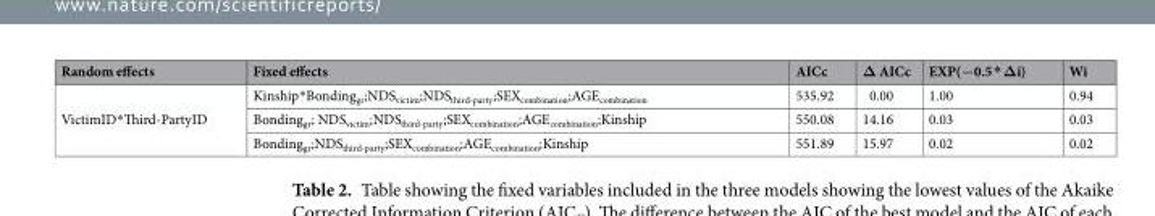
<table><thead><tr><td>Random effects</td><td>Fixed effects</td><td>AICc</td><td>Δ AICc</td><td>EXP(−0.5 * Δi)</td><td>Wi</td></tr></thead><tbody><tr><td rowspan="3">VictimID*Third-PartyID</td><td>Kinship*Bonding<sub>gr</sub>;NDS<sub>victim</sub>;NDS<sub>third-party</sub>;SEX<sub>combination</sub>;AGE<sub>combination</sub></td><td>535.92</td><td>0.00</td><td>1.00</td><td>0.94</td></tr><tr><td>Bonding<sub>gr</sub>; NDS<sub>victim</sub>;NDS<sub>third-party</sub>;SEX<sub>combination</sub>;AGE<sub>combination</sub>;Kinship</td><td>550.08</td><td>14.16</td><td>0.03</td><td>0.03</td></tr><tr><td>Bonding<sub>gr</sub>;NDS<sub>third-party</sub>;SEX<sub>combination</sub>;AGE<sub>combination</sub>;Kinship</td><td>551.89</td><td>15.97</td><td>0.02</td><td>0.02</td></tr></tbody></table>